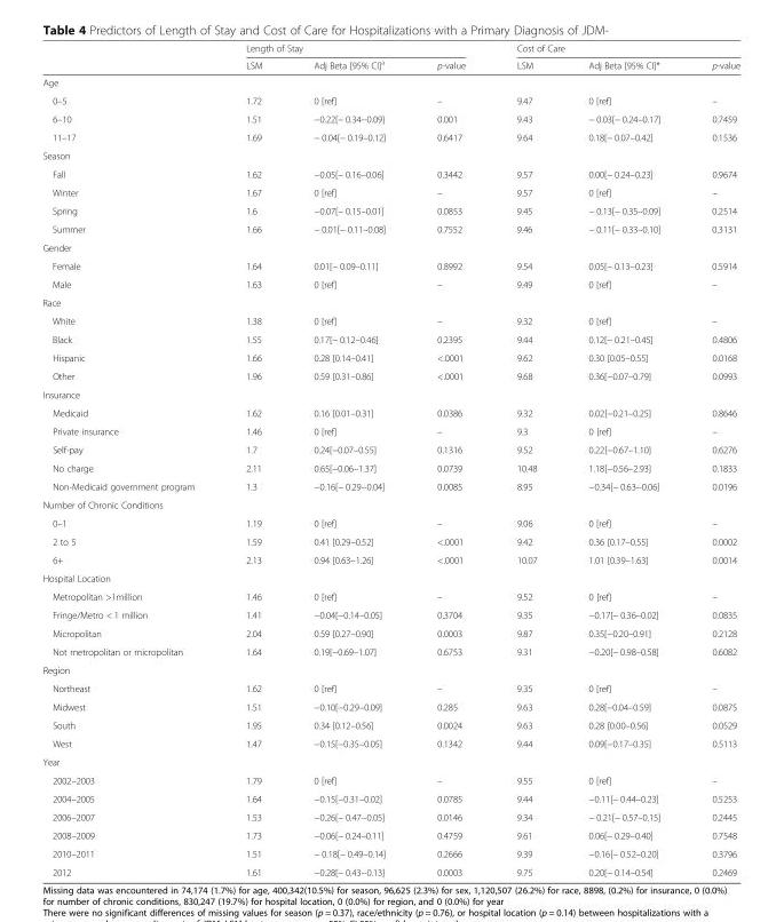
<table><thead><tr><td rowspan="2"></td><td colspan="3">Length of Stay</td><td colspan="3">Cost of Care</td></tr><tr><td>LSM</td><td>Adj Beta [95% CI]<sup>a</sup></td><td>p-value</td><td>LSM</td><td>Adj Beta [95% CI]*</td><td>p-value</td></tr></thead><tbody><tr><td colspan="7">Age</td></tr><tr><td>0–5</td><td>1.72</td><td>0 [ref]</td><td>–</td><td>9.47</td><td>0 [ref]</td><td>–</td></tr><tr><td>6–10</td><td>1.51</td><td>−0.22[− 0.34--0.09]</td><td>0.001</td><td>9.43</td><td>− 0.03[− 0.24–0.17]</td><td>0.7459</td></tr><tr><td>11–17</td><td>1.69</td><td>− 0.04[− 0.19–0.12]</td><td>0.6417</td><td>9.64</td><td>0.18[− 0.07–0.42]</td><td>0.1536</td></tr><tr><td colspan="7">Season</td></tr><tr><td>Fall</td><td>1.62</td><td>−0.05[− 0.16–0.06]</td><td>0.3442</td><td>9.57</td><td>0.00[− 0.24–0.23]</td><td>0.9674</td></tr><tr><td>Winter</td><td>1.67</td><td>0 [ref]</td><td>–</td><td>9.57</td><td>0 [ref]</td><td>–</td></tr><tr><td>Spring</td><td>1.6</td><td>−0.07[− 0.15–0.01]</td><td>0.0853</td><td>9.45</td><td>− 0.13[− 0.35–0.09]</td><td>0.2514</td></tr><tr><td>Summer</td><td>1.66</td><td>− 0.01[− 0.11–0.08]</td><td>0.7552</td><td>9.46</td><td>− 0.11[− 0.33–0.10]</td><td>0.3131</td></tr><tr><td colspan="7">Gender</td></tr><tr><td>Female</td><td>1.64</td><td>0.01[− 0.09–0.11]</td><td>0.8992</td><td>9.54</td><td>0.05[− 0.13–0.23]</td><td>0.5914</td></tr><tr><td>Male</td><td>1.63</td><td>0 [ref]</td><td>–</td><td>9.49</td><td>0 [ref]</td><td>–</td></tr><tr><td colspan="7">Race</td></tr><tr><td>White</td><td>1.38</td><td>0 [ref]</td><td>–</td><td>9.32</td><td>0 [ref]</td><td>–</td></tr><tr><td>Black</td><td>1.55</td><td>0.17[− 0.12–0.46]</td><td>0.2395</td><td>9.44</td><td>0.12[− 0.21–0.45]</td><td>0.4806</td></tr><tr><td>Hispanic</td><td>1.66</td><td>0.28 [0.14–0.41]</td><td>&lt;.0001</td><td>9.62</td><td>0.30 [0.05–0.55]</td><td>0.0168</td></tr><tr><td>Other</td><td>1.96</td><td>0.59 [0.31–0.86]</td><td>&lt;.0001</td><td>9.68</td><td>0.36[−0.07–0.79]</td><td>0.0993</td></tr><tr><td colspan="7">Insurance</td></tr><tr><td>Medicaid</td><td>1.62</td><td>0.16 [0.01–0.31]</td><td>0.0386</td><td>9.32</td><td>0.02[−0.21–0.25]</td><td>0.8646</td></tr><tr><td>Private insurance</td><td>1.46</td><td>0 [ref]</td><td>–</td><td>9.3</td><td>0 [ref]</td><td>–</td></tr><tr><td>Self-pay</td><td>1.7</td><td>0.24[−0.07–0.55]</td><td>0.1316</td><td>9.52</td><td>0.22[−0.67–1.10]</td><td>0.6276</td></tr><tr><td>No charge</td><td>2.11</td><td>0.65[−0.06–1.37]</td><td>0.0739</td><td>10.48</td><td>1.18[−0.56–2.93]</td><td>0.1833</td></tr><tr><td>Non-Medicaid government program</td><td>1.3</td><td>−0.16[− 0.29--0.04]</td><td>0.0085</td><td>8.95</td><td>−0.34[− 0.63--0.06]</td><td>0.0196</td></tr><tr><td colspan="7">Number of Chronic Conditions</td></tr><tr><td>0–1</td><td>1.19</td><td>0 [ref]</td><td>–</td><td>9.06</td><td>0 [ref]</td><td>–</td></tr><tr><td>2 to 5</td><td>1.59</td><td>0.41 [0.29–0.52]</td><td>&lt;.0001</td><td>9.42</td><td>0.36 [0.17–0.55]</td><td>0.0002</td></tr><tr><td>6+</td><td>2.13</td><td>0.94 [0.63–1.26]</td><td>&lt;.0001</td><td>10.07</td><td>1.01 [0.39–1.63]</td><td>0.0014</td></tr><tr><td colspan="7">Hospital Location</td></tr><tr><td>Metropolitan &gt;1million</td><td>1.46</td><td>0 [ref]</td><td>–</td><td>9.52</td><td>0 [ref]</td><td>–</td></tr><tr><td>Fringe/Metro &lt; 1 million</td><td>1.41</td><td>−0.04[−0.14–0.05]</td><td>0.3704</td><td>9.35</td><td>−0.17[− 0.36–0.02]</td><td>0.0835</td></tr><tr><td>Micropolitan</td><td>2.04</td><td>0.59 [0.27–0.90]</td><td>0.0003</td><td>9.87</td><td>0.35[−0.20–0.91]</td><td>0.2128</td></tr><tr><td>Not metropolitan or micropolitan</td><td>1.64</td><td>0.19[−0.69–1.07]</td><td>0.6753</td><td>9.31</td><td>−0.20[− 0.98–0.58]</td><td>0.6082</td></tr><tr><td colspan="7">Region</td></tr><tr><td>Northeast</td><td>1.62</td><td>0 [ref]</td><td>–</td><td>9.35</td><td>0 [ref]</td><td>–</td></tr><tr><td>Midwest</td><td>1.51</td><td>−0.10[−0.29–0.09]</td><td>0.285</td><td>9.63</td><td>0.28[−0.04–0.59]</td><td>0.0875</td></tr><tr><td>South</td><td>1.95</td><td>0.34 [0.12–0.56]</td><td>0.0024</td><td>9.63</td><td>0.28 [0.00–0.56]</td><td>0.0529</td></tr><tr><td>West</td><td>1.47</td><td>−0.15[−0.35–0.05]</td><td>0.1342</td><td>9.44</td><td>0.09[−0.17–0.35]</td><td>0.5113</td></tr><tr><td colspan="7">Year</td></tr><tr><td>2002–2003</td><td>1.79</td><td>0 [ref]</td><td>–</td><td>9.55</td><td>0 [ref]</td><td>–</td></tr><tr><td>2004–2005</td><td>1.64</td><td>−0.15[−0.31–0.02]</td><td>0.0785</td><td>9.44</td><td>−0.11[− 0.44–0.23]</td><td>0.5253</td></tr><tr><td>2006–2007</td><td>1.53</td><td>−0.26[− 0.47--0.05]</td><td>0.0146</td><td>9.34</td><td>− 0.21[− 0.57–0.15]</td><td>0.2445</td></tr><tr><td>2008–2009</td><td>1.73</td><td>−0.06[− 0.24–0.11]</td><td>0.4759</td><td>9.61</td><td>0.06[− 0.29–0.40]</td><td>0.7548</td></tr><tr><td>2010–2011</td><td>1.51</td><td>− 0.18[− 0.49–0.14]</td><td>0.2666</td><td>9.39</td><td>−0.16[− 0.52–0.20]</td><td>0.3796</td></tr><tr><td>2012</td><td>1.61</td><td>−0.28[− 0.43--0.13]</td><td>0.0003</td><td>9.75</td><td>0.20[− 0.14–0.54]</td><td>0.2469</td></tr></tbody></table>